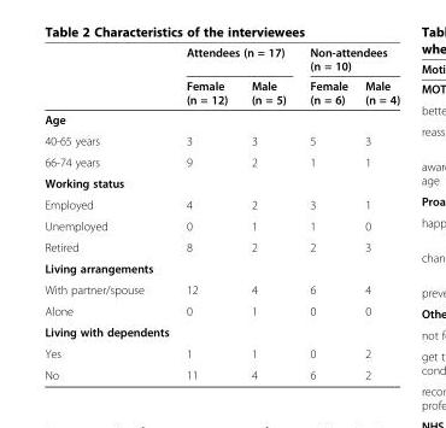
<table><thead><tr><td rowspan="2"></td><td colspan="2">Attendees (n = 17)</td><td colspan="2">Non-attendees (n = 10)</td></tr><tr><td>Female (n = 12)</td><td>Male (n = 5)</td><td>Female (n = 6)</td><td>Male (n = 4)</td></tr></thead><tbody><tr><td colspan="5">Age</td></tr><tr><td>40-65 years</td><td>3</td><td>3</td><td>5</td><td>3</td></tr><tr><td>66-74 years</td><td>9</td><td>2</td><td>1</td><td>1</td></tr><tr><td colspan="5">Working status</td></tr><tr><td>Employed</td><td>4</td><td>2</td><td>3</td><td>1</td></tr><tr><td>Unemployed</td><td>0</td><td>1</td><td>1</td><td>0</td></tr><tr><td>Retired</td><td>8</td><td>2</td><td>2</td><td>3</td></tr><tr><td colspan="5">Living arrangements</td></tr><tr><td>With partner/spouse</td><td>12</td><td>4</td><td>6</td><td>4</td></tr><tr><td>Alone</td><td>0</td><td>1</td><td>0</td><td>0</td></tr><tr><td colspan="5">Living with dependents</td></tr><tr><td>Yes</td><td>1</td><td>1</td><td>0</td><td>2</td></tr><tr><td>No</td><td>11</td><td>4</td><td>6</td><td>2</td></tr></tbody></table>